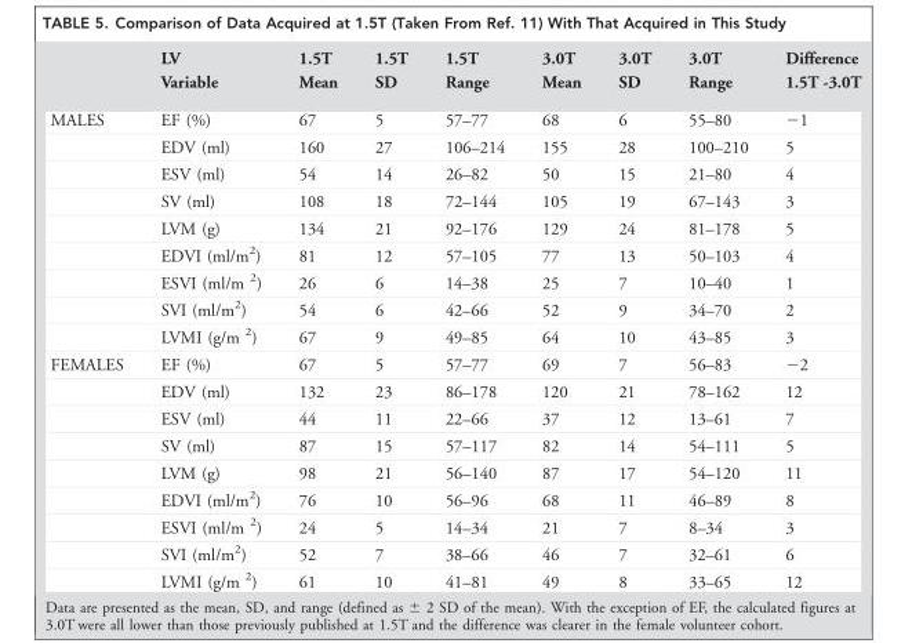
<table><thead><tr><td rowspan="2"></td><td rowspan="2">LV Variable</td><td rowspan="2">1.5T Mean</td><td rowspan="2">1.5T SD</td><td rowspan="2">1.5T Range</td><td rowspan="2">3.0T Mean</td><td rowspan="2">3.0T SD</td><td rowspan="2">3.0T Range</td><td rowspan="2">Difference 1.5T -3.0T</td></tr><tr></tr></thead><tbody><tr><td rowspan="9">MALES</td><td>EF (%)</td><td>67</td><td>5</td><td>57–77</td><td>68</td><td>6</td><td>55–80</td><td>−1</td></tr><tr><td>EDV (ml)</td><td>160</td><td>27</td><td>106–214</td><td>155</td><td>28</td><td>100–210</td><td>5</td></tr><tr><td>ESV (ml)</td><td>54</td><td>14</td><td>26–82</td><td>50</td><td>15</td><td>21–80</td><td>4</td></tr><tr><td>SV (ml)</td><td>108</td><td>18</td><td>72–144</td><td>105</td><td>19</td><td>67–143</td><td>3</td></tr><tr><td>LVM (g)</td><td>134</td><td>21</td><td>92–176</td><td>129</td><td>24</td><td>81–178</td><td>5</td></tr><tr><td>EDVI (ml/m<sup>2</sup>)</td><td>81</td><td>12</td><td>57–105</td><td>77</td><td>13</td><td>50–103</td><td>4</td></tr><tr><td>ESVI (ml/m <sup>2</sup>)</td><td>26</td><td>6</td><td>14–38</td><td>25</td><td>7</td><td>10–40</td><td>1</td></tr><tr><td>SVI (ml/m<sup>2</sup>)</td><td>54</td><td>6</td><td>42–66</td><td>52</td><td>9</td><td>34–70</td><td>2</td></tr><tr><td>LVMI (g/m <sup>2</sup>)</td><td>67</td><td>9</td><td>49–85</td><td>64</td><td>10</td><td>43–85</td><td>3</td></tr><tr><td rowspan="9">FEMALES</td><td>EF (%)</td><td>67</td><td>5</td><td>57–77</td><td>69</td><td>7</td><td>56–83</td><td>−2</td></tr><tr><td>EDV (ml)</td><td>132</td><td>23</td><td>86–178</td><td>120</td><td>21</td><td>78–162</td><td>12</td></tr><tr><td>ESV (ml)</td><td>44</td><td>11</td><td>22–66</td><td>37</td><td>12</td><td>13–61</td><td>7</td></tr><tr><td>SV (ml)</td><td>87</td><td>15</td><td>57–117</td><td>82</td><td>14</td><td>54–111</td><td>5</td></tr><tr><td>LVM (g)</td><td>98</td><td>21</td><td>56–140</td><td>87</td><td>17</td><td>54–120</td><td>11</td></tr><tr><td>EDVI (ml/m<sup>2</sup>)</td><td>76</td><td>10</td><td>56–96</td><td>68</td><td>11</td><td>46–89</td><td>8</td></tr><tr><td>ESVI (ml/m <sup>2</sup>)</td><td>24</td><td>5</td><td>14–34</td><td>21</td><td>7</td><td>8–34</td><td>3</td></tr><tr><td>SVI (ml/m<sup>2</sup>)</td><td>52</td><td>7</td><td>38–66</td><td>46</td><td>7</td><td>32–61</td><td>6</td></tr><tr><td>LVMI (g/m <sup>2</sup>)</td><td>61</td><td>10</td><td>41–81</td><td>49</td><td>8</td><td>33–65</td><td>12</td></tr></tbody></table>